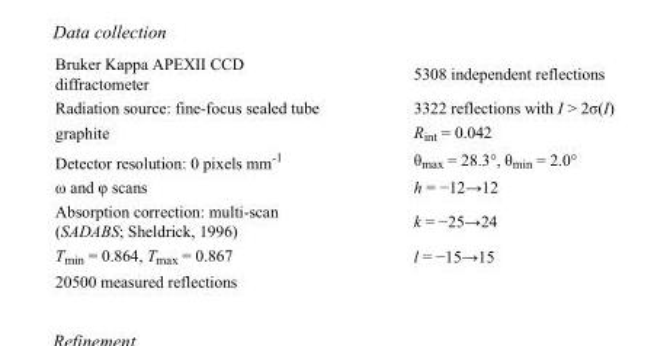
<table><tbody><tr><td>Bruker Kappa APEXII CCD diffractometer</td><td>5308 independent reflections</td></tr><tr><td>Radiation source: fine-focus sealed tube</td><td>3322 reflections with I &gt; 2σ(I)</td></tr><tr><td>graphite</td><td>R<sub>int</sub> = 0.042</td></tr><tr><td>Detector resolution: 0 pixels mm<sup>-1</sup></td><td>θ<sub>max</sub> = 28.3°, θ<sub>min</sub> = 2.0°</td></tr><tr><td>ω and φ scans</td><td>h = −12→12</td></tr><tr><td>Absorption correction: multi-scan (SADABS; Sheldrick, 1996)</td><td>k = −25→24</td></tr><tr><td>T<sub>min</sub> = 0.864, T<sub>max</sub> = 0.867</td><td>l = −15→15</td></tr><tr><td>20500 measured reflections</td><td></td></tr></tbody></table>